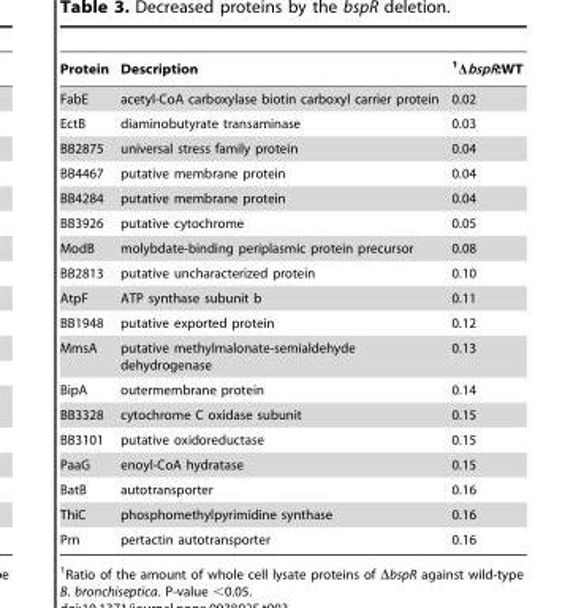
<table><thead><tr><td>Protein</td><td>Description</td><td>1ΔbspR:WT</td></tr></thead><tbody><tr><td>FabE</td><td>acetyl-CoA carboxylase biotin carboxyl carrier protein</td><td>0.02</td></tr><tr><td>EctB</td><td>diaminobutyrate transaminase</td><td>0.03</td></tr><tr><td>BB2875</td><td>universal stress family protein</td><td>0.04</td></tr><tr><td>BB4467</td><td>putative membrane protein</td><td>0.04</td></tr><tr><td>BB4284</td><td>putative membrane protein</td><td>0.04</td></tr><tr><td>BB3926</td><td>putative cytochrome</td><td>0.05</td></tr><tr><td>ModB</td><td>molybdate-binding periplasmic protein precursor</td><td>0.08</td></tr><tr><td>BB2813</td><td>putative uncharacterized protein</td><td>0.10</td></tr><tr><td>AtpF</td><td>ATP synthase subunit b</td><td>0.11</td></tr><tr><td>BB1948</td><td>putative exported protein</td><td>0.12</td></tr><tr><td>MmsA</td><td>putative methylmalonate-semialdehyde dehydrogenase</td><td>0.13</td></tr><tr><td>BipA</td><td>outermembrane protein</td><td>0.14</td></tr><tr><td>BB3328</td><td>cytochrome C oxidase subunit</td><td>0.15</td></tr><tr><td>BB3101</td><td>putative oxidoreductase</td><td>0.15</td></tr><tr><td>PaaG</td><td>enoyl-CoA hydratase</td><td>0.15</td></tr><tr><td>BatB</td><td>autotransporter</td><td>0.16</td></tr><tr><td>ThiC</td><td>phosphomethylpyrimidine synthase</td><td>0.16</td></tr><tr><td>Prn</td><td>pertactin autotransporter</td><td>0.16</td></tr></tbody></table>